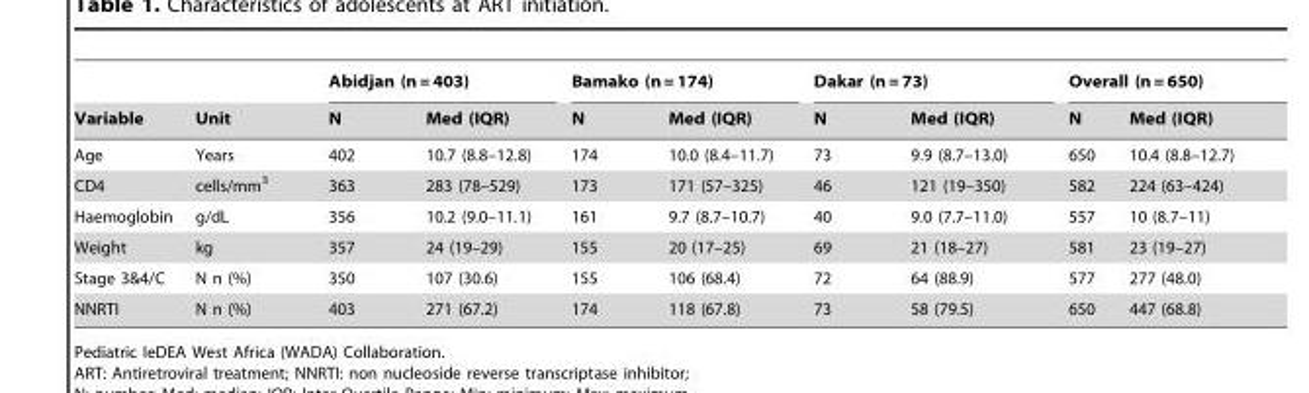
<table><thead><tr><td rowspan="2">Variable</td><td rowspan="2">Unit</td><td colspan="2">Abidjan (n = 403)</td><td colspan="2">Bamako (n = 174)</td><td colspan="2">Dakar (n = 73)</td><td colspan="2">Overall (n = 650)</td></tr><tr><td>N</td><td>Med (IQR)</td><td>N</td><td>Med (IQR)</td><td>N</td><td>Med (IQR)</td><td>N</td><td>Med (IQR)</td></tr></thead><tbody><tr><td>Age</td><td>Years</td><td>402</td><td>10.7 (8.8–12.8)</td><td>174</td><td>10.0 (8.4–11.7)</td><td>73</td><td>9.9 (8.7–13.0)</td><td>650</td><td>10.4 (8.8–12.7)</td></tr><tr><td>CD4</td><td>cells/mm<sup>3</sup></td><td>363</td><td>283 (78–529)</td><td>173</td><td>171 (57–325)</td><td>46</td><td>121 (19–350)</td><td>582</td><td>224 (63–424)</td></tr><tr><td>Haemoglobin</td><td>g/dL</td><td>356</td><td>10.2 (9.0–11.1)</td><td>161</td><td>9.7 (8.7–10.7)</td><td>40</td><td>9.0 (7.7–11.0)</td><td>557</td><td>10 (8.7–11)</td></tr><tr><td>Weight</td><td>kg</td><td>357</td><td>24 (19–29)</td><td>155</td><td>20 (17–25)</td><td>69</td><td>21 (18–27)</td><td>581</td><td>23 (19–27)</td></tr><tr><td>Stage 3&amp;4/C</td><td>N n (%)</td><td>350</td><td>107 (30.6)</td><td>155</td><td>106 (68.4)</td><td>72</td><td>64 (88.9)</td><td>577</td><td>277 (48.0)</td></tr><tr><td>NNRTI</td><td>N n (%)</td><td>403</td><td>271 (67.2)</td><td>174</td><td>118 (67.8)</td><td>73</td><td>58 (79.5)</td><td>650</td><td>447 (68.8)</td></tr></tbody></table>